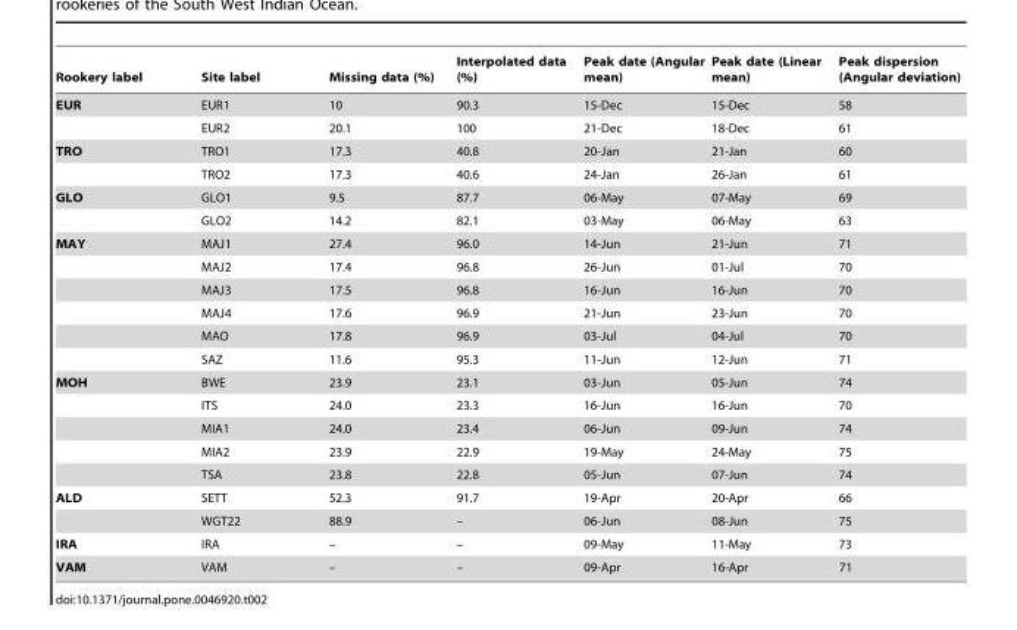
<table><thead><tr><td>Rookery label</td><td>Site label</td><td>Missing data (%)</td><td>Interpolated data (%)</td><td>Peak date (Angular mean)</td><td>Peak date (Linear mean)</td><td>Peak dispersion (Angular deviation)</td></tr></thead><tbody><tr><td rowspan="2">EUR</td><td>EUR1</td><td>10</td><td>90.3</td><td>15-Dec</td><td>15-Dec</td><td>58</td></tr><tr><td>EUR2</td><td>20.1</td><td>100</td><td>21-Dec</td><td>18-Dec</td><td>61</td></tr><tr><td rowspan="2">TRO</td><td>TRO1</td><td>17.3</td><td>40.8</td><td>20-Jan</td><td>21-Jan</td><td>60</td></tr><tr><td>TRO2</td><td>17.3</td><td>40.6</td><td>24-Jan</td><td>26-Jan</td><td>61</td></tr><tr><td rowspan="2">GLO</td><td>GLO1</td><td>9.5</td><td>87.7</td><td>06-May</td><td>07-May</td><td>69</td></tr><tr><td>GLO2</td><td>14.2</td><td>82.1</td><td>03-May</td><td>06-May</td><td>63</td></tr><tr><td rowspan="6">MAY</td><td>MAJ1</td><td>27.4</td><td>96.0</td><td>14-Jun</td><td>21-Jun</td><td>71</td></tr><tr><td>MAJ2</td><td>17.4</td><td>96.8</td><td>26-Jun</td><td>01-Jul</td><td>70</td></tr><tr><td>MAJ3</td><td>17.5</td><td>96.8</td><td>16-Jun</td><td>16-Jun</td><td>70</td></tr><tr><td>MAJ4</td><td>17.6</td><td>96.9</td><td>21-Jun</td><td>23-Jun</td><td>70</td></tr><tr><td>MAO</td><td>17.8</td><td>96.9</td><td>03-Jul</td><td>04-Jul</td><td>70</td></tr><tr><td>SAZ</td><td>11.6</td><td>95.3</td><td>11-Jun</td><td>12-Jun</td><td>71</td></tr><tr><td rowspan="5">MOH</td><td>BWE</td><td>23.9</td><td>23.1</td><td>03-Jun</td><td>05-Jun</td><td>74</td></tr><tr><td>ITS</td><td>24.0</td><td>23.3</td><td>16-Jun</td><td>16-Jun</td><td>70</td></tr><tr><td>MIA1</td><td>24.0</td><td>23.4</td><td>06-Jun</td><td>09-Jun</td><td>74</td></tr><tr><td>MIA2</td><td>23.9</td><td>22.9</td><td>19-May</td><td>24-May</td><td>75</td></tr><tr><td>TSA</td><td>23.8</td><td>22.8</td><td>05-Jun</td><td>07-Jun</td><td>74</td></tr><tr><td rowspan="2">ALD</td><td>SETT</td><td>52.3</td><td>91.7</td><td>19-Apr</td><td>20-Apr</td><td>66</td></tr><tr><td>WGT22</td><td>88.9</td><td>–</td><td>06-Jun</td><td>08-Jun</td><td>75</td></tr><tr><td>IRA</td><td>IRA</td><td>–</td><td>–</td><td>09-May</td><td>11-May</td><td>73</td></tr><tr><td>VAM</td><td>VAM</td><td>–</td><td>–</td><td>09-Apr</td><td>16-Apr</td><td>71</td></tr></tbody></table>